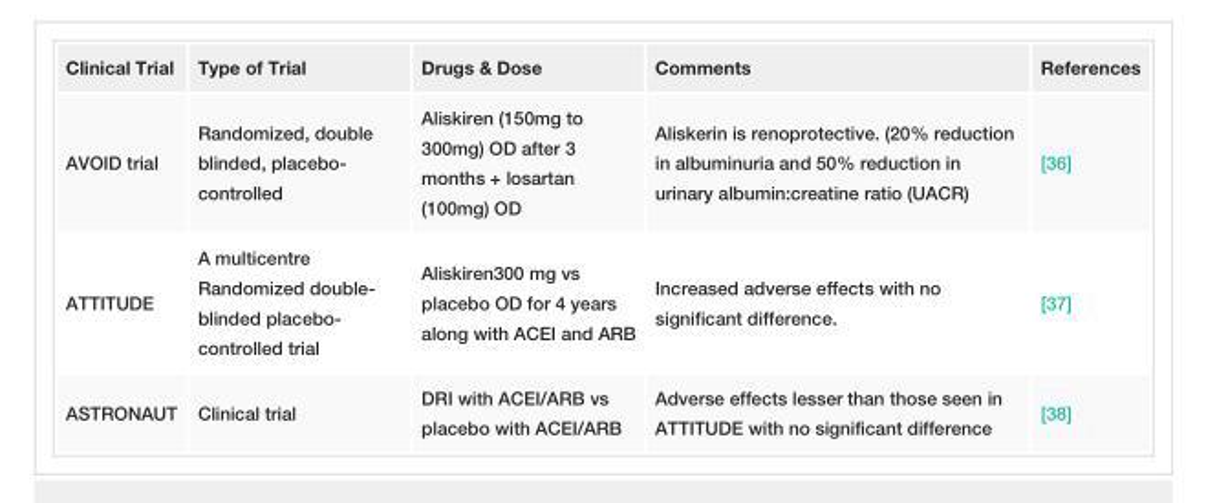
<table><tbody><tr><td>Clinical Trial</td><td>Type of Trial</td><td>Drugs &amp; Dose</td><td>Comments</td><td>References</td></tr><tr><td>AVOID trial</td><td>Randomized, double blinded, placebo- controlled</td><td>Aliskiren (150mg to 300mg) OD after 3 months + losartan (100mg) OD</td><td>Aliskerin is renoprotective. (20% reduction in albuminuria and 50% reduction in urinary albumin:creatine ratio (UACR)</td><td>[36]</td></tr><tr><td>ATTITUDE</td><td>A multicentre Randomized double- blinded placebo- controlled trial</td><td>Aliskiren300 mg vs placebo OD for 4 years along with ACEI and ARB</td><td>Increased adverse effects with no significant difference.</td><td>[37]</td></tr><tr><td>ASTRONAUT</td><td>Clinical trial</td><td>DRI with ACEI/ARB vs placebo with ACEI/ARB</td><td>Adverse effects lesser than those seen in ATTITUDE with no significant difference</td><td>[38]</td></tr></tbody></table>